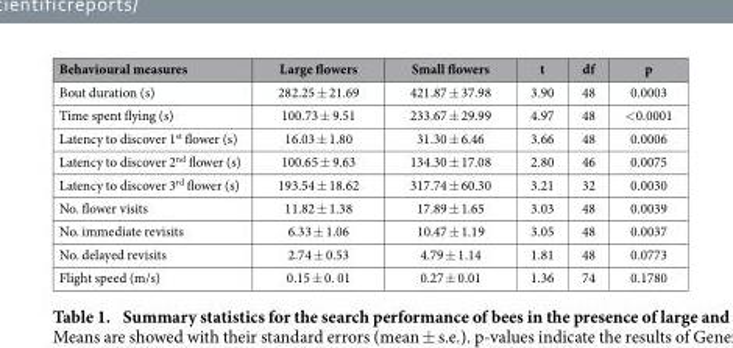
<table><thead><tr><td>Behavioural measures</td><td>Large flowers</td><td>Small flowers</td><td>t</td><td>df</td><td>p</td></tr></thead><tbody><tr><td>Bout duration (s)</td><td>282.25 ± 21.69</td><td>421.87 ± 37.98</td><td>3.90</td><td>48</td><td>0.0003</td></tr><tr><td>Time spent flying (s)</td><td>100.73 ± 9.51</td><td>233.67 ± 29.99</td><td>4.97</td><td>48</td><td>&lt; 0.0001</td></tr><tr><td>Latency to discover 1<sup>st</sup> flower (s)</td><td>16.03 ± 1.80</td><td>31.30 ± 6.46</td><td>3.66</td><td>48</td><td>0.0006</td></tr><tr><td>Latency to discover 2<sup>nd</sup> flower (s)</td><td>100.65 ± 9.63</td><td>134.30 ± 17.08</td><td>2.80</td><td>46</td><td>0.0075</td></tr><tr><td>Latency to discover 3<sup>rd</sup> flower (s)</td><td>193.54 ± 18.62</td><td>317.74 ± 60.30</td><td>3.21</td><td>32</td><td>0.0030</td></tr><tr><td>No. flower visits</td><td>11.82 ± 1.38</td><td>17.89 ± 1.65</td><td>3.03</td><td>48</td><td>0.0039</td></tr><tr><td>No. immediate revisits</td><td>6.33 ± 1.06</td><td>10.47 ± 1.19</td><td>3.05</td><td>48</td><td>0.0037</td></tr><tr><td>No. delayed revisits</td><td>2.74 ± 0.53</td><td>4.79 ± 1.14</td><td>1.81</td><td>48</td><td>0.0773</td></tr><tr><td>Flight speed (m/s)</td><td>0.15 ± 0. 01</td><td>0.27 ± 0.01</td><td>1.36</td><td>74</td><td>0.1780</td></tr></tbody></table>